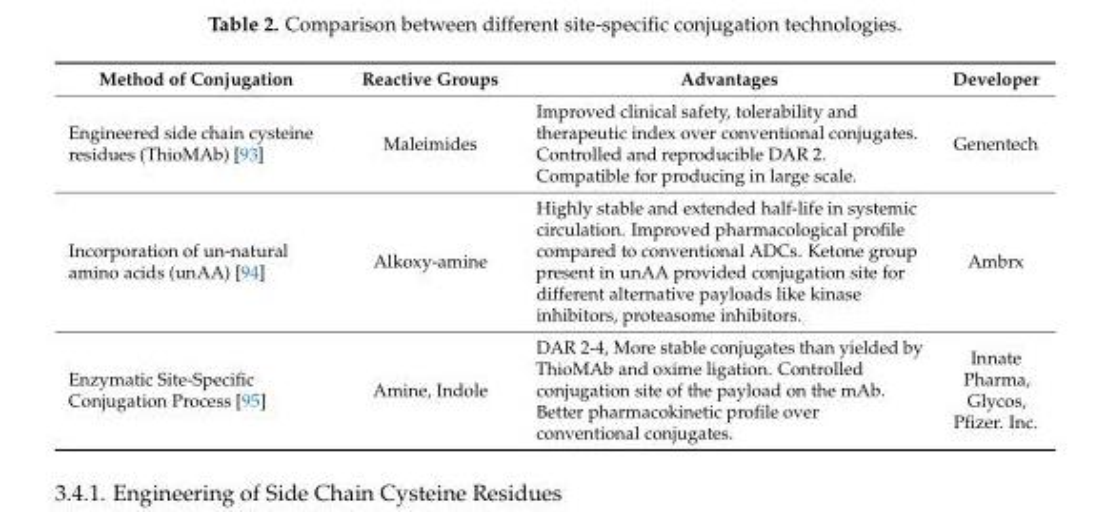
<table><thead><tr><td>Method of Conjugation</td><td>Reactive Groups</td><td>Advantages</td><td>Developer</td></tr></thead><tbody><tr><td>Engineered side chain cysteine residues (ThioMAb) [93]</td><td>Maleimides</td><td>Improved clinical safety, tolerability and therapeutic index over conventional conjugates. Controlled and reproducible DAR 2. Compatible for producing in large scale.</td><td>Genentech</td></tr><tr><td>Incorporation of un-natural amino acids (unAA) [94]</td><td>Alkoxy-amine</td><td>Highly stable and extended half-life in systemic circulation. Improved pharmacological profile compared to conventional ADCs. Ketone group present in unAA provided conjugation site for different alternative payloads like kinase inhibitors, proteasome inhibitors.</td><td>Ambrx</td></tr><tr><td>Enzymatic Site-Specific Conjugation Process [95]</td><td>Amine, Indole</td><td>DAR 2-4, More stable conjugates than yielded by ThioMAb and oxime ligation. Controlled conjugation site of the payload on the mAb. Better pharmacokinetic profile over conventional conjugates.</td><td>Innate Pharma, Glycos, Pfizer. Inc.</td></tr></tbody></table>